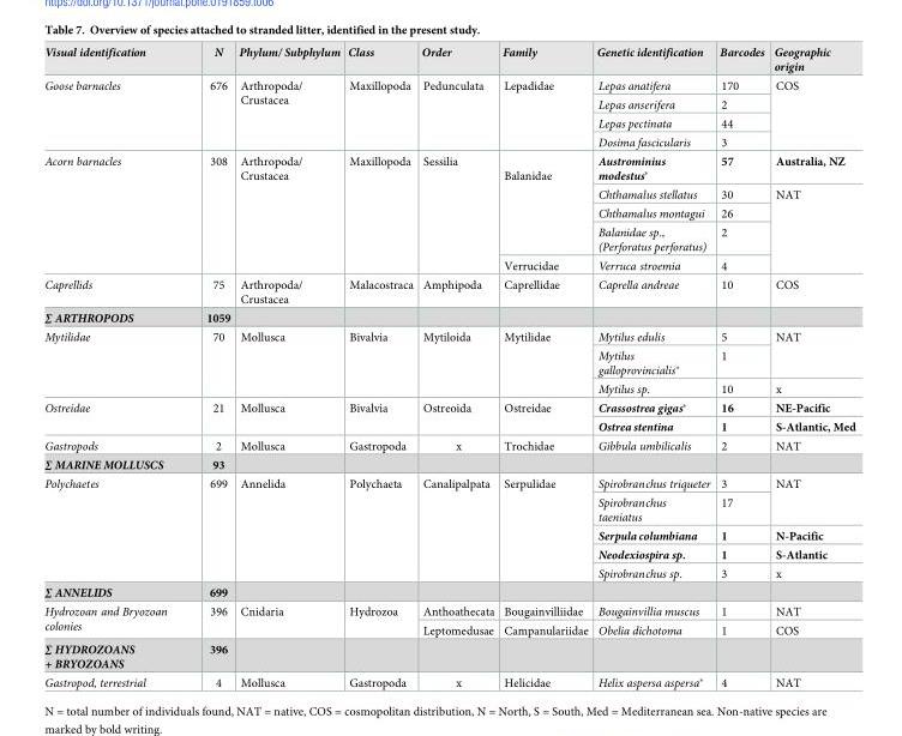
<table><thead><tr><td>Visual identification</td><td>N</td><td>Phylum/ Subphylum</td><td>Class</td><td>Order</td><td>Family</td><td>Genetic identification</td><td>Barcodes</td><td>Geographic origin</td></tr></thead><tbody><tr><td rowspan="4">Goose barnacles</td><td rowspan="4">676</td><td rowspan="4">Arthropoda/ Crustacea</td><td rowspan="4">Maxillopoda</td><td rowspan="4">Pedunculata</td><td rowspan="4">Lepadidae</td><td>Lepas anatifera</td><td>170</td><td rowspan="4">COS</td></tr><tr><td>Lepas anserifera</td><td>2</td></tr><tr><td>Lepas pectinata</td><td>44</td></tr><tr><td>Dosima fascicularis</td><td>3</td></tr><tr><td rowspan="5">Acorn barnacles</td><td rowspan="5">308</td><td rowspan="5">Arthropoda/ Crustacea</td><td rowspan="5">Maxillopoda</td><td rowspan="5">Sessilia</td><td rowspan="4">Balanidae</td><td>Austrominius modestus*</td><td>57</td><td>Australia, NZ</td></tr><tr><td>Chthamalus stellatus</td><td>30</td><td rowspan="4">NAT</td></tr><tr><td>Chthamalus montagui</td><td>26</td></tr><tr><td>Balanidae sp., (Perforatus perforatus)</td><td>2</td></tr><tr><td>Verrucidae</td><td>Verruca stroemia</td><td>4</td></tr><tr><td>Caprellids</td><td>75</td><td>Arthropoda/ Crustacea</td><td>Malacostraca</td><td>Amphipoda</td><td>Caprellidae</td><td>Caprella andreae</td><td>10</td><td>COS</td></tr><tr><td>∑ ARTHROPODS</td><td>1059</td><td></td><td></td><td></td><td></td><td></td><td></td><td></td></tr><tr><td rowspan="3">Mytilidae</td><td rowspan="3">70</td><td rowspan="3">Mollusca</td><td rowspan="3">Bivalvia</td><td rowspan="3">Mytiloida</td><td rowspan="3">Mytilidae</td><td>Mytilus edulis</td><td>5</td><td rowspan="2">NAT</td></tr><tr><td>Mytilus galloprovincialis*</td><td>1</td></tr><tr><td>Mytilus sp.</td><td>10</td><td>x</td></tr><tr><td rowspan="2">Ostreidae</td><td rowspan="2">21</td><td rowspan="2">Mollusca</td><td rowspan="2">Bivalvia</td><td rowspan="2">Ostreoida</td><td rowspan="2">Ostreidae</td><td>Crassostrea gigas*</td><td>16</td><td>NE-Pacific</td></tr><tr><td>Ostrea stentina</td><td>1</td><td>S-Atlantic, Med</td></tr><tr><td>Gastropods</td><td>2</td><td>Mollusca</td><td>Gastropoda</td><td>x</td><td>Trochidae</td><td>Gibbula umbilicalis</td><td>2</td><td>NAT</td></tr><tr><td>∑ MARINE MOLLUSCS</td><td>93</td><td></td><td></td><td></td><td></td><td></td><td></td><td></td></tr><tr><td rowspan="5">Polychaetes</td><td rowspan="5">699</td><td rowspan="5">Annelida</td><td rowspan="5">Polychaeta</td><td rowspan="5">Canalipalpata</td><td rowspan="5">Serpulidae</td><td>Spirobranchus triqueter</td><td>3</td><td rowspan="2">NAT</td></tr><tr><td>Spirobranchus taeniatus</td><td>17</td></tr><tr><td>Serpula columbiana</td><td>1</td><td>N-Pacific</td></tr><tr><td>Neodexiospira sp.</td><td>1</td><td>S-Atlantic</td></tr><tr><td>Spirobranchus sp.</td><td>3</td><td>x</td></tr><tr><td>∑ ANNELIDS</td><td>699</td><td></td><td></td><td></td><td></td><td></td><td></td><td></td></tr><tr><td rowspan="2">Hydrozoan and Bryozoan colonies</td><td rowspan="2">396</td><td rowspan="2">Cnidaria</td><td rowspan="2">Hydrozoa</td><td>Anthoathecata</td><td>Bougainvilliidae</td><td>Bougainvillia muscus</td><td>1</td><td>NAT</td></tr><tr><td>Leptomedusae</td><td>Campanulariidae</td><td>Obelia dichotoma</td><td>1</td><td>COS</td></tr><tr><td>∑ HYDROZOANS + BRYOZOANS</td><td>396</td><td></td><td></td><td></td><td></td><td></td><td></td><td></td></tr><tr><td>Gastropod, terrestrial</td><td>4</td><td>Mollusca</td><td>Gastropoda</td><td>x</td><td>Helicidae</td><td>Helix aspersa aspersa*</td><td>4</td><td>NAT</td></tr></tbody></table>